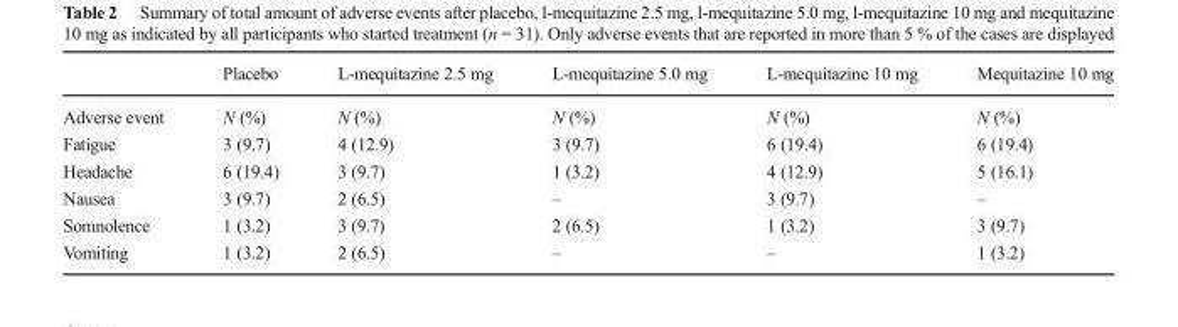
<table><thead><tr><td></td><td>Placebo</td><td>L-mequitazine 2.5 mg</td><td>L-mequitazine 5.0 mg</td><td>L-mequitazine 10 mg</td><td>Mequitazine 10 mg</td></tr></thead><tbody><tr><td>Adverse event</td><td>N (%)</td><td>N (%)</td><td>N (%)</td><td>N (%)</td><td>N (%)</td></tr><tr><td>Fatigue</td><td>3 (9.7)</td><td>4 (12.9)</td><td>3 (9.7)</td><td>6 (19.4)</td><td>6 (19.4)</td></tr><tr><td>Headache</td><td>6 (19.4)</td><td>3 (9.7)</td><td>1 (3.2)</td><td>4 (12.9)</td><td>5 (16.1)</td></tr><tr><td>Nausea</td><td>3 (9.7)</td><td>2 (6.5)</td><td>–</td><td>3 (9.7)</td><td>–</td></tr><tr><td>Somnolence</td><td>1 (3.2)</td><td>3 (9.7)</td><td>2 (6.5)</td><td>1 (3.2)</td><td>3 (9.7)</td></tr><tr><td>Vomiting</td><td>1 (3.2)</td><td>2 (6.5)</td><td>–</td><td>–</td><td>1 (3.2)</td></tr></tbody></table>